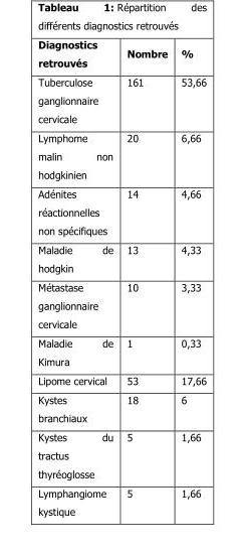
<table><thead><tr><td>Diagnostics retrouvés</td><td>Nombre</td><td>%</td></tr></thead><tbody><tr><td>Tuberculose ganglionnaire cervicale</td><td>161</td><td>53,66</td></tr><tr><td>Lymphome malin non hodgkinien</td><td>20</td><td>6,66</td></tr><tr><td>Adénites réactionnelles non spécifiques</td><td>14</td><td>4,66</td></tr><tr><td>Maladie de hodgkin</td><td>13</td><td>4,33</td></tr><tr><td>Métastase ganglionnaire cervicale</td><td>10</td><td>3,33</td></tr><tr><td>Maladie de Kimura</td><td>1</td><td>0,33</td></tr><tr><td>Lipome cervical</td><td>53</td><td>17,66</td></tr><tr><td>Kystes branchiaux</td><td>18</td><td>6</td></tr><tr><td>Kystes du tractus thyréoglosse</td><td>5</td><td>1,66</td></tr><tr><td>Lymphangiome kystique</td><td>5</td><td>1,66</td></tr></tbody></table>